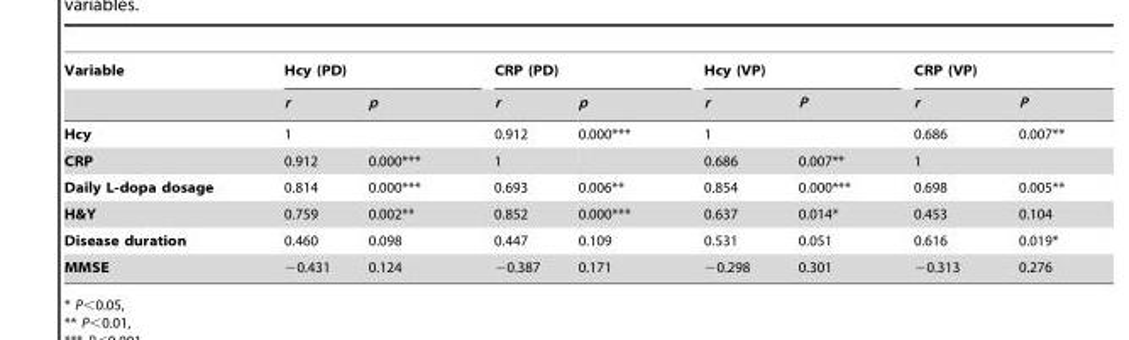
<table><thead><tr><td rowspan="2">Variable</td><td colspan="2">Hcy (PD)</td><td colspan="2">CRP (PD)</td><td colspan="2">Hcy (VP)</td><td colspan="2">CRP (VP)</td></tr><tr><td>r</td><td>p</td><td>r</td><td>p</td><td>r</td><td>P</td><td>r</td><td>P</td></tr></thead><tbody><tr><td>Hcy</td><td>1</td><td></td><td>0.912</td><td>0.000***</td><td>1</td><td></td><td>0.686</td><td>0.007**</td></tr><tr><td>CRP</td><td>0.912</td><td>0.000***</td><td>1</td><td></td><td>0.686</td><td>0.007**</td><td>1</td><td></td></tr><tr><td>Daily L-dopa dosage</td><td>0.814</td><td>0.000***</td><td>0.693</td><td>0.006**</td><td>0.854</td><td>0.000***</td><td>0.698</td><td>0.005**</td></tr><tr><td>H&amp;Y</td><td>0.759</td><td>0.002**</td><td>0.852</td><td>0.000***</td><td>0.637</td><td>0.014*</td><td>0.453</td><td>0.104</td></tr><tr><td>Disease duration</td><td>0.460</td><td>0.098</td><td>0.447</td><td>0.109</td><td>0.531</td><td>0.051</td><td>0.616</td><td>0.019*</td></tr><tr><td>MMSE</td><td>−0.431</td><td>0.124</td><td>−0.387</td><td>0.171</td><td>−0.298</td><td>0.301</td><td>−0.313</td><td>0.276</td></tr></tbody></table>